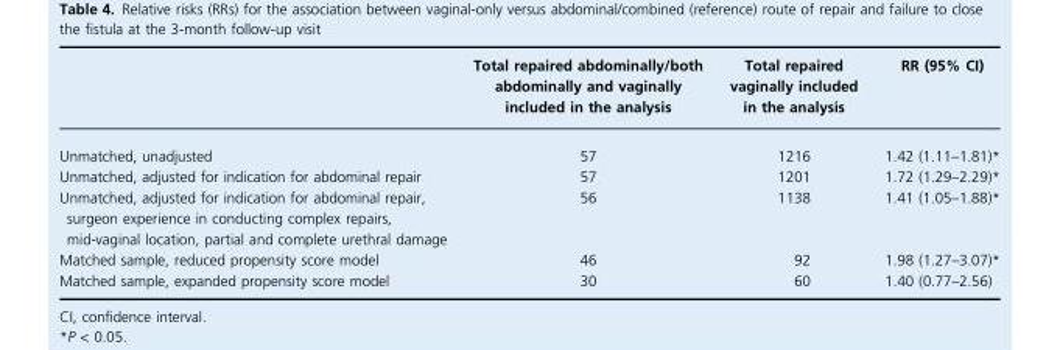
<table><thead><tr><td></td><td>Total repaired abdominally/both abdominally and vaginally included in the analysis</td><td>Total repaired vaginally included in the analysis</td><td>RR (95% CI)</td></tr></thead><tbody><tr><td>Unmatched, unadjusted</td><td>57</td><td>1216</td><td>1.42 (1.11–1.81)*</td></tr><tr><td>Unmatched, adjusted for indication for abdominal repair</td><td>57</td><td>1201</td><td>1.72 (1.29–2.29)*</td></tr><tr><td>Unmatched, adjusted for indication for abdominal repair, surgeon experience in conducting complex repairs, mid-vaginal location, partial and complete urethral damage</td><td>56</td><td>1138</td><td>1.41 (1.05–1.88)*</td></tr><tr><td>Matched sample, reduced propensity score model</td><td>46</td><td>92</td><td>1.98 (1.27–3.07)*</td></tr><tr><td>Matched sample, expanded propensity score model</td><td>30</td><td>60</td><td>1.40 (0.77–2.56)</td></tr></tbody></table>